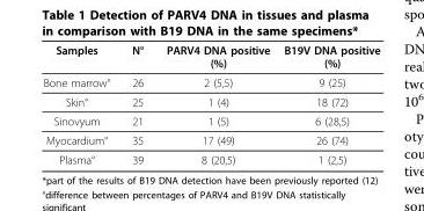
<table><thead><tr><td>Samples</td><td>N°</td><td>PARV4 DNA positive (%)</td><td>B19V DNA positive (%)</td></tr></thead><tbody><tr><td>Bone marrow°</td><td>26</td><td>2 (5,5)</td><td>9 (25)</td></tr><tr><td>Skin°</td><td>25</td><td>1 (4)</td><td>18 (72)</td></tr><tr><td>Sinovyum</td><td>21</td><td>1 (5)</td><td>6 (28,5)</td></tr><tr><td>Myocardium°</td><td>35</td><td>17 (49)</td><td>26 (74)</td></tr><tr><td>Plasma°</td><td>39</td><td>8 (20,5)</td><td>1 (2,5)</td></tr></tbody></table>